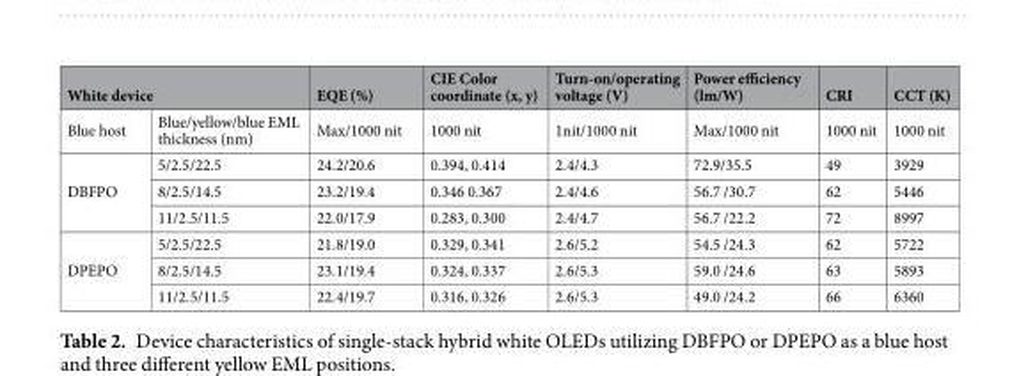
<table><thead><tr><td colspan="2">White device</td><td rowspan="2">EQE (%) Max/1000 nit</td><td rowspan="2">CIE Color coordinate (x, y) 1000 nit</td><td rowspan="2">Turn-on/operating voltage (V) 1nit/1000 nit</td><td rowspan="2">Power efficiency (lm/W) Max/1000 nit</td><td rowspan="2">CRI 1000 nit</td><td rowspan="2">CCT (K) 1000 nit</td></tr><tr><td>Blue host</td><td>Blue/yellow/blue EML thickness (nm)</td></tr></thead><tbody><tr><td rowspan="3">DBFPO</td><td>5/2.5/22.5</td><td>24.2/20.6</td><td>0.394, 0.414</td><td>2.4/4.3</td><td>72.9/35.5</td><td>49</td><td>3929</td></tr><tr><td>8/2.5/14.5</td><td>23.2/19.4</td><td>0.346 0.367</td><td>2.4/4.6</td><td>56.7 /30.7</td><td>62</td><td>5446</td></tr><tr><td>11/2.5/11.5</td><td>22.0/17.9</td><td>0.283, 0.300</td><td>2.4/4.7</td><td>56.7 /22.2</td><td>72</td><td>8997</td></tr><tr><td rowspan="3">DPEPO</td><td>5/2.5/22.5</td><td>21.8/19.0</td><td>0.329, 0.341</td><td>2.6/5.2</td><td>54.5 /24.3</td><td>62</td><td>5722</td></tr><tr><td>8/2.5/14.5</td><td>23.1/19.4</td><td>0.324, 0.337</td><td>2.6/5.3</td><td>59.0 /24.6</td><td>63</td><td>5893</td></tr><tr><td>11/2.5/11.5</td><td>22.4/19.7</td><td>0.316, 0.326</td><td>2.6/5.3</td><td>49.0 /24.2</td><td>66</td><td>6360</td></tr></tbody></table>